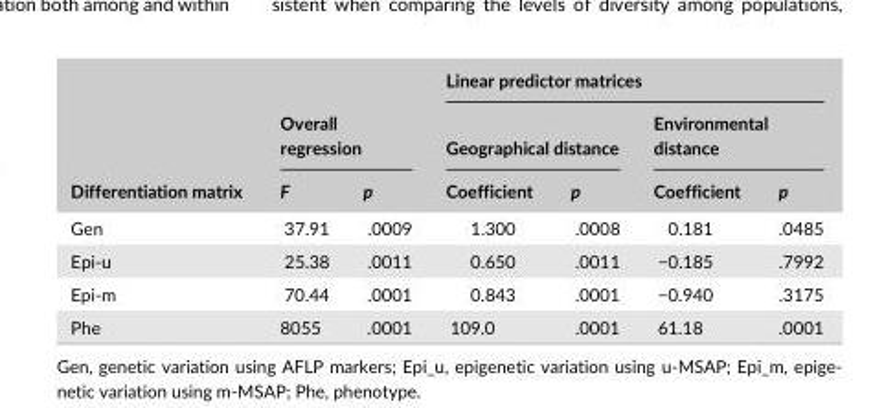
<table><thead><tr><td rowspan="3">Differentiation matrix</td><td rowspan="2" colspan="2">Overall regression</td><td colspan="4">Linear predictor matrices</td></tr><tr><td colspan="2">Geographical distance</td><td colspan="2">Environmental distance</td></tr><tr><td>F</td><td>p</td><td>Coefficient</td><td>p</td><td>Coefficient</td><td>p</td></tr></thead><tbody><tr><td>Gen</td><td>37.91</td><td>.0009</td><td>1.300</td><td>.0008</td><td>0.181</td><td>.0485</td></tr><tr><td>Epi- u</td><td>25.38</td><td>.0011</td><td>0.650</td><td>.0011</td><td>−0.185</td><td>.7992</td></tr><tr><td>Epi- m</td><td>70.44</td><td>.0001</td><td>0.843</td><td>.0001</td><td>−0.940</td><td>.3175</td></tr><tr><td>Phe</td><td>8055</td><td>.0001</td><td>109.0</td><td>.0001</td><td>61.18</td><td>.0001</td></tr></tbody></table>